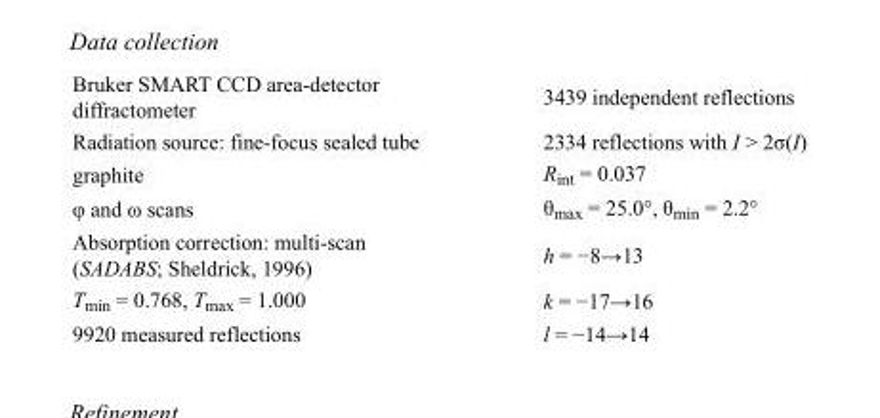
<table><tbody><tr><td>Bruker SMART CCD area-detector diffractometer</td><td>3439 independent reflections</td></tr><tr><td>Radiation source: fine-focus sealed tube</td><td>2334 reflections with I &gt; 2σ(I)</td></tr><tr><td>graphite</td><td>R<sub>int</sub> = 0.037</td></tr><tr><td>φ and ω scans</td><td>θ<sub>max</sub> = 25.0°, θ<sub>min</sub> = 2.2°</td></tr><tr><td>Absorption correction: multi-scan (SADABS; Sheldrick, 1996)</td><td>h = −8→13</td></tr><tr><td>T<sub>min</sub> = 0.768, T<sub>max</sub> = 1.000</td><td>k = −17→16</td></tr><tr><td>9920 measured reflections</td><td>l = −14→14</td></tr></tbody></table>